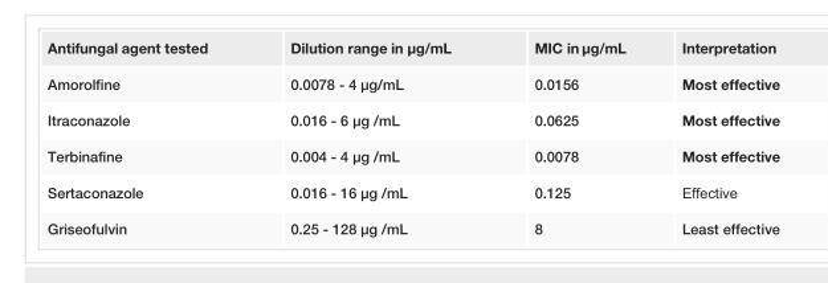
<table><tbody><tr><td>Antifungal agent tested</td><td>Dilution range in μg/mL</td><td>MIC in μg/mL</td><td>Interpretation</td></tr><tr><td>Amorolfine</td><td>0.0078 - 4 μg/mL</td><td>0.0156</td><td>Most effective</td></tr><tr><td>Itraconazole</td><td>0.016 - 6 μg /mL</td><td>0.0625</td><td>Most effective</td></tr><tr><td>Terbinafine</td><td>0.004 - 4 μg /mL</td><td>0.0078</td><td>Most effective</td></tr><tr><td>Sertaconazole</td><td>0.016 - 16 μg /mL</td><td>0.125</td><td>Effective</td></tr><tr><td>Griseofulvin</td><td>0.25 - 128 μg /mL</td><td>8</td><td>Least effective</td></tr></tbody></table>